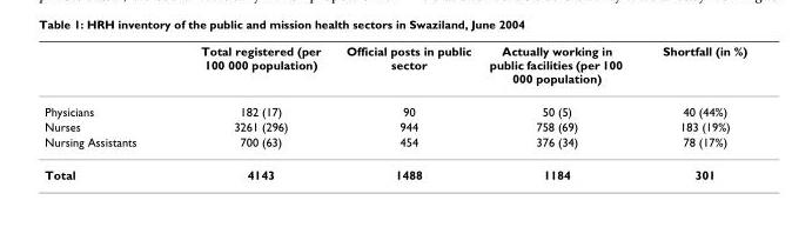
<table><thead><tr><td></td><td>Total registered (per 100 000 population)</td><td>Official posts in public sector</td><td>Actually working in public facilities (per 100 000 population)</td><td>Shortfall (in %)</td></tr></thead><tbody><tr><td>Physicians</td><td>182 (17)</td><td>90</td><td>50 (5)</td><td>40 (44%)</td></tr><tr><td>Nurses</td><td>3261 (296)</td><td>944</td><td>758 (69)</td><td>183 (19%)</td></tr><tr><td>Nursing Assistants</td><td>700 (63)</td><td>454</td><td>376 (34)</td><td>78 (17%)</td></tr><tr><td>Total</td><td>4143</td><td>1488</td><td>1184</td><td>301</td></tr></tbody></table>